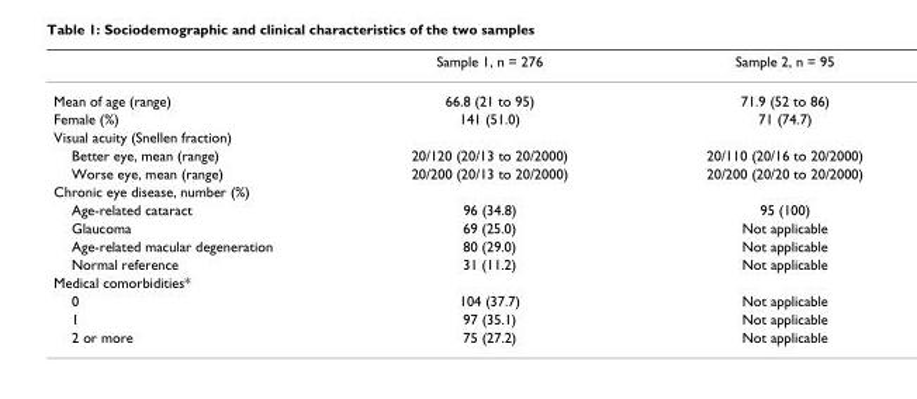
<table><thead><tr><td></td><td>Sample 1, n = 276</td><td>Sample 2, n = 95</td></tr></thead><tbody><tr><td>Mean of age (range)</td><td>66.8 (21 to 95)</td><td>71.9 (52 to 86)</td></tr><tr><td>Female (%)</td><td>141 (51.0)</td><td>71 (74.7)</td></tr><tr><td colspan="3">Visual acuity (Snellen fraction)</td></tr><tr><td>Better eye, mean (range)</td><td>20/120 (20/13 to 20/2000)</td><td>20/110 (20/16 to 20/2000)</td></tr><tr><td>Worse eye, mean (range)</td><td>20/200 (20/13 to 20/2000)</td><td>20/200 (20/20 to 20/2000)</td></tr><tr><td colspan="3">Chronic eye disease, number (%)</td></tr><tr><td>Age-related cataract</td><td>96 (34.8)</td><td>95 (100)</td></tr><tr><td>Glaucoma</td><td>69 (25.0)</td><td>Not applicable</td></tr><tr><td>Age-related macular degeneration</td><td>80 (29.0)</td><td>Not applicable</td></tr><tr><td>Normal reference</td><td>31 (11.2)</td><td>Not applicable</td></tr><tr><td colspan="3">Medical comorbidities*</td></tr><tr><td>0</td><td>104 (37.7)</td><td>Not applicable</td></tr><tr><td>1</td><td>97 (35.1)</td><td>Not applicable</td></tr><tr><td>2 or more</td><td>75 (27.2)</td><td>Not applicable</td></tr></tbody></table>